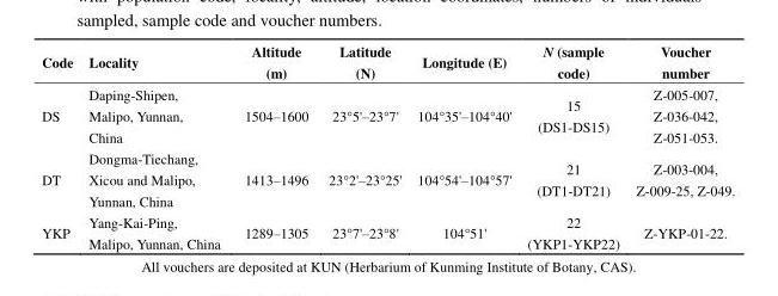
<table><thead><tr><td>Code</td><td>Locality</td><td>Altitude (m)</td><td>Latitude (N)</td><td>Longitude (E)</td><td>N (sample code)</td><td>Voucher number</td></tr></thead><tbody><tr><td>DS</td><td>Daping-Shipen, Malipo, Yunnan, China</td><td>1504–1600</td><td>23°5&#x27;–23°7&#x27;</td><td>104°35&#x27;–104°40&#x27;</td><td>15 (DS1-DS15)</td><td>Z-005-007, Z-036-042, Z-051-053.</td></tr><tr><td>DT</td><td>Dongma-Tiechang, Xicou and Malipo, Yunnan, China</td><td>1413–1496</td><td>23°2&#x27;–23°25&#x27;</td><td>104°54&#x27;–104°57&#x27;</td><td>21 (DT1-DT21)</td><td>Z-003-004, Z-009-25, Z-049.</td></tr><tr><td>YKP</td><td>Yang-Kai-Ping, Malipo, Yunnan, China</td><td>1289–1305</td><td>23°7&#x27;–23°8&#x27;</td><td>104°51&#x27;</td><td>22 (YKP1-YKP22)</td><td>Z-YKP-01-22.</td></tr></tbody></table>